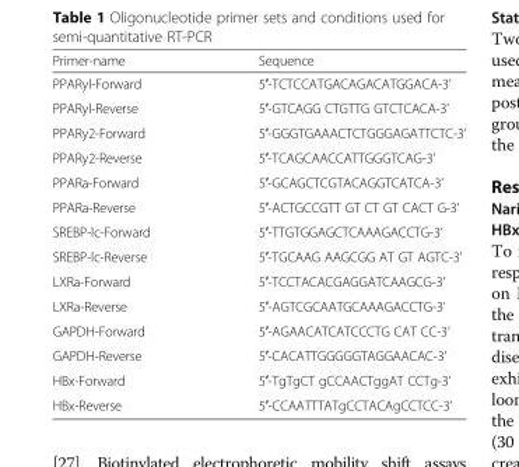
<table><thead><tr><td>Primer-name</td><td>Sequence</td></tr></thead><tbody><tr><td>PPARyl-Forward</td><td>5′-TCTCCATGACAGACATGGACA-3’</td></tr><tr><td>PPARyl-Reverse</td><td>5′-GTCAGG CTGTTG GTCTCACA-3’</td></tr><tr><td>PPARy2-Forward</td><td>5′-GGGTGAAACTCTGGGAGATTCTC-3’</td></tr><tr><td>PPARy2-Reverse</td><td>5′-TCAGCAACCATTGGGTCAG-3’</td></tr><tr><td>PPARa-Forward</td><td>5′-GCAGCTCGTACAGGTCATCA-3’</td></tr><tr><td>PPARa-Reverse</td><td>5′-ACTGCCGTT GT CT GT CACT G-3’</td></tr><tr><td>SREBP-lc-Forward</td><td>5′-TTGTGGAGCTCAAAGACCTG-3’</td></tr><tr><td>SREBP-lc-Reverse</td><td>5′-TGCAAG AAGCGG AT GT AGTC-3’</td></tr><tr><td>LXRa-Forward</td><td>5′-TCCTACACGAGGATCAAGCG-3’</td></tr><tr><td>LXRa-Reverse</td><td>5′-AGTCGCAATGCAAAGACCTG-3’</td></tr><tr><td>GAPDH-Forward</td><td>5′-AGAACATCATCCCTG CAT CC-3’</td></tr><tr><td>GAPDH-Reverse</td><td>5′-CACATTGGGGGTAGGAACAC-3’</td></tr><tr><td>HBx-Forward</td><td>5′-TgTgCT gCCAACTggAT CCTg-3’</td></tr><tr><td>HBx-Reverse</td><td>5′-CCAATTTATgCCTACAgCCTCC-3’</td></tr></tbody></table>